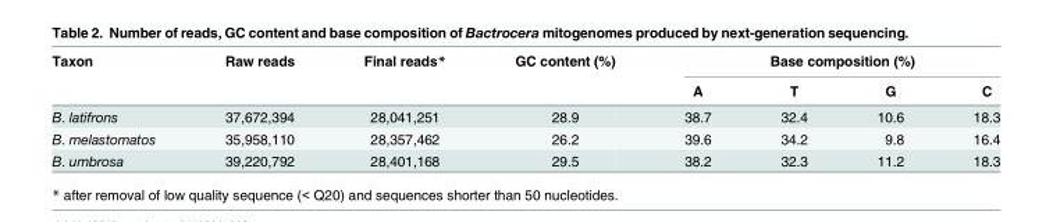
<table><thead><tr><td rowspan="2">Taxon</td><td rowspan="2">Raw reads</td><td rowspan="2">Final reads*</td><td rowspan="2">GC content (%)</td><td colspan="4">Base composition (%)</td></tr><tr><td>A</td><td>T</td><td>G</td><td>C</td></tr></thead><tbody><tr><td>B. latifrons</td><td>37,672,394</td><td>28,041,251</td><td>28.9</td><td>38.7</td><td>32.4</td><td>10.6</td><td>18.3</td></tr><tr><td>B. melastomatos</td><td>35,958,110</td><td>28,357,462</td><td>26.2</td><td>39.6</td><td>34.2</td><td>9.8</td><td>16.4</td></tr><tr><td>B. umbrosa</td><td>39,220,792</td><td>28,401,168</td><td>29.5</td><td>38.2</td><td>32.3</td><td>11.2</td><td>18.3</td></tr></tbody></table>